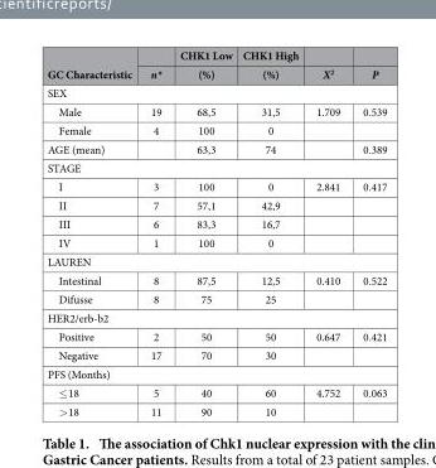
<table><thead><tr><td rowspan="2">GC Characteristic</td><td rowspan="2">n*</td><td rowspan="2">CHK1 Low (%)</td><td rowspan="2">CHK1 High (%)</td><td rowspan="2">X<sup>2</sup></td><td rowspan="2">P</td></tr><tr></tr></thead><tbody><tr><td colspan="6">SEX</td></tr><tr><td>Male</td><td>19</td><td>68,5</td><td>31,5</td><td>1.709</td><td>0.539</td></tr><tr><td>Female</td><td>4</td><td>100</td><td>0</td><td></td><td></td></tr><tr><td>AGE (mean)</td><td></td><td>63,3</td><td>74</td><td></td><td>0.389</td></tr><tr><td colspan="6">STAGE</td></tr><tr><td>I</td><td>3</td><td>100</td><td>0</td><td>2.841</td><td>0.417</td></tr><tr><td>II</td><td>7</td><td>57,1</td><td>42,9</td><td></td><td></td></tr><tr><td>III</td><td>6</td><td>83,3</td><td>16,7</td><td></td><td></td></tr><tr><td>IV</td><td>1</td><td>100</td><td>0</td><td></td><td></td></tr><tr><td colspan="6">LAUREN</td></tr><tr><td>Intestinal</td><td>8</td><td>87,5</td><td>12,5</td><td>0.410</td><td>0.522</td></tr><tr><td>Difusse</td><td>8</td><td>75</td><td>25</td><td></td><td></td></tr><tr><td colspan="6">HER2/erb-b2</td></tr><tr><td>Positive</td><td>2</td><td>50</td><td>50</td><td>0.647</td><td>0.421</td></tr><tr><td>Negative</td><td>17</td><td>70</td><td>30</td><td></td><td></td></tr><tr><td colspan="6">PFS (Months)</td></tr><tr><td>≤ 18</td><td>5</td><td>40</td><td>60</td><td>4.752</td><td>0.063</td></tr><tr><td>&gt; 18</td><td>11</td><td>90</td><td>10</td><td></td><td></td></tr></tbody></table>